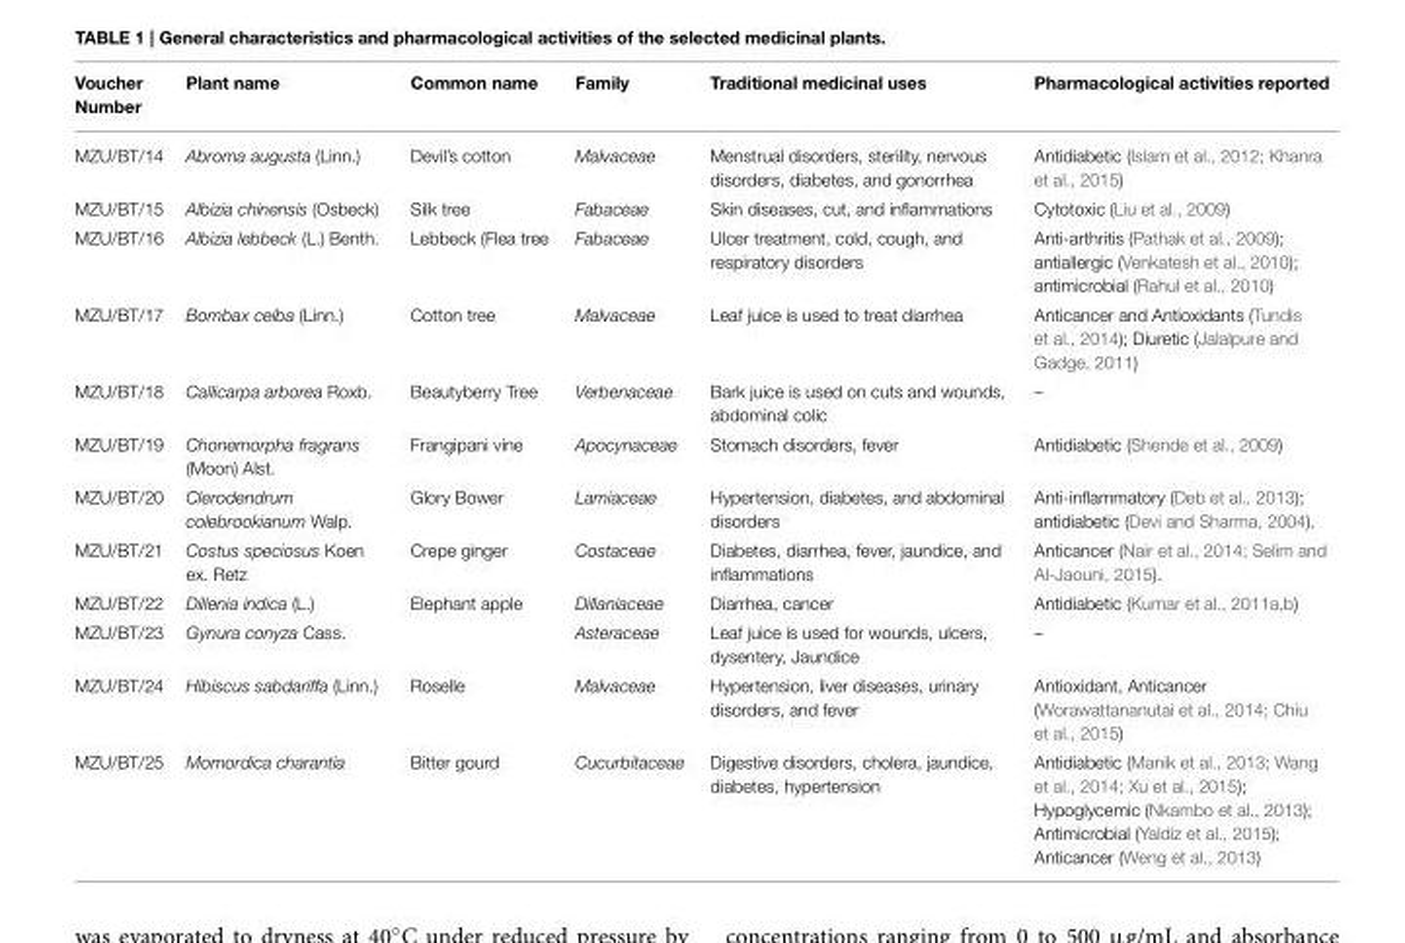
<table><thead><tr><td>Voucher Number</td><td>Plant name</td><td>Common name</td><td>Family</td><td>Traditional medicinal uses</td><td>Pharmacological activities reported</td></tr></thead><tbody><tr><td>MZU/BT/14</td><td>Abroma augusta (Linn.)</td><td>Devil’s cotton</td><td>Malvaceae</td><td>Menstrual disorders, sterility, nervous disorders, diabetes, and gonorrhea</td><td>Antidiabetic (Islam et al., 2012; Khanra et al., 2015)</td></tr><tr><td>MZU/BT/15</td><td>Albizia chinensis (Osbeck)</td><td>Silk tree</td><td>Fabaceae</td><td>Skin diseases, cut, and inflammations</td><td>Cytotoxic (Liu et al., 2009)</td></tr><tr><td>MZU/BT/16</td><td>Albizia lebbeck (L.) Benth.</td><td>Lebbeck (Flea tree</td><td>Fabaceae</td><td>Ulcer treatment, cold, cough, and respiratory disorders</td><td>Anti-arthritis (Pathak et al., 2009); antiallergic (Venkatesh et al., 2010); antimicrobial (Rahul et al., 2010)</td></tr><tr><td>MZU/BT/17</td><td>Bombax ceiba (Linn.)</td><td>Cotton tree</td><td>Malvaceae</td><td>Leaf juice is used to treat diarrhea</td><td>Anticancer and Antioxidants (Tundis et al., 2014); Diuretic (Jalalpure and Gadge, 2011)</td></tr><tr><td>MZU/BT/18</td><td>Callicarpa arborea Roxb.</td><td>Beautyberry Tree</td><td>Verbenaceae</td><td>Bark juice is used on cuts and wounds, abdominal colic</td><td>–</td></tr><tr><td>MZU/BT/19</td><td>Chonemorpha fragrans (Moon) Alst.</td><td>Frangipani vine</td><td>Apocynaceae</td><td>Stomach disorders, fever</td><td>Antidiabetic (Shende et al., 2009)</td></tr><tr><td>MZU/BT/20</td><td>Clerodendrum colebrookianum Walp.</td><td>Glory Bower</td><td>Lamiaceae</td><td>Hypertension, diabetes, and abdominal disorders</td><td>Anti-inflammatory (Deb et al., 2013); antidiabetic (Devi and Sharma, 2004).</td></tr><tr><td>MZU/BT/21</td><td>Costus speciosus Koen ex. Retz</td><td>Crepe ginger</td><td>Costaceae</td><td>Diabetes, diarrhea, fever, jaundice, and inflammations</td><td>Anticancer (Nair et al., 2014; Selim and Al-Jaouni, 2015).</td></tr><tr><td>MZU/BT/22</td><td>Dillenia indica (L.)</td><td>Elephant apple</td><td>Dillaniaceae</td><td>Diarrhea, cancer</td><td>Antidiabetic (Kumar et al., 2011a,b)</td></tr><tr><td>MZU/BT/23</td><td>Gynura conyza Cass.</td><td></td><td>Asteraceae</td><td>Leaf juice is used for wounds, ulcers, dysentery, Jaundice</td><td>–</td></tr><tr><td>MZU/BT/24</td><td>Hibiscus sabdariffa (Linn.)</td><td>Roselle</td><td>Malvaceae</td><td>Hypertension, liver diseases, urinary disorders, and fever</td><td>Antioxidant, Anticancer (Worawattananutai et al., 2014; Chiu et al., 2015)</td></tr><tr><td>MZU/BT/25</td><td>Momordica charantia</td><td>Bitter gourd</td><td>Cucurbitaceae</td><td>Digestive disorders, cholera, jaundice, diabetes, hypertension</td><td>Antidiabetic (Manik et al., 2013; Wang et al., 2014; Xu et al., 2015); Hypoglycemic (Nkambo et al., 2013); Antimicrobial (Yaldiz et al., 2015); Anticancer (Weng et al., 2013)</td></tr></tbody></table>